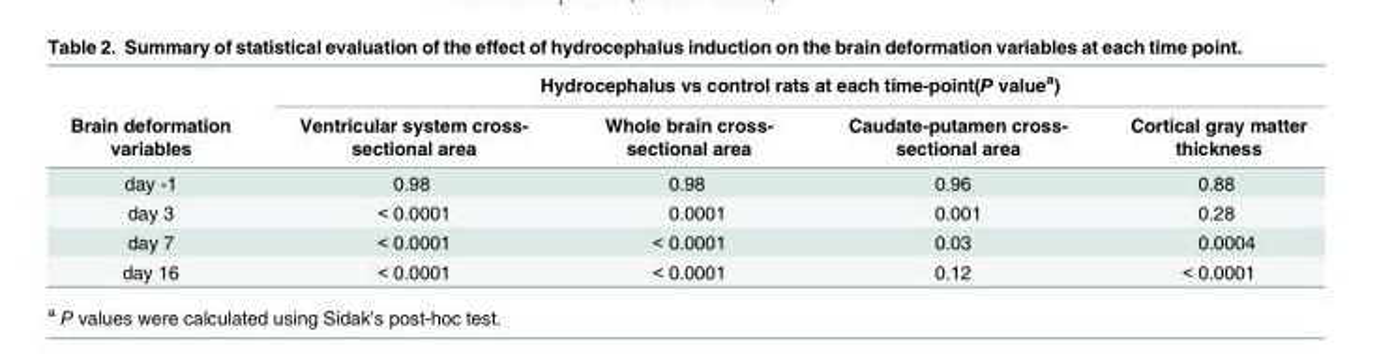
<table><thead><tr><td rowspan="2">Brain deformation variables</td><td colspan="4">Hydrocephalus vs control rats at each time-point(P value<sup>a</sup>)</td></tr><tr><td>Ventricular system cross- sectional area</td><td>Whole brain cross- sectional area</td><td>Caudate-putamen cross- sectional area</td><td>Cortical gray matter thickness</td></tr></thead><tbody><tr><td>day -1</td><td>0.98</td><td>0.98</td><td>0.96</td><td>0.88</td></tr><tr><td>day 3</td><td>&lt; 0.0001</td><td>0.0001</td><td>0.001</td><td>0.28</td></tr><tr><td>day 7</td><td>&lt; 0.0001</td><td>&lt; 0.0001</td><td>0.03</td><td>0.0004</td></tr><tr><td>day 16</td><td>&lt; 0.0001</td><td>&lt; 0.0001</td><td>0.12</td><td>&lt; 0.0001</td></tr></tbody></table>